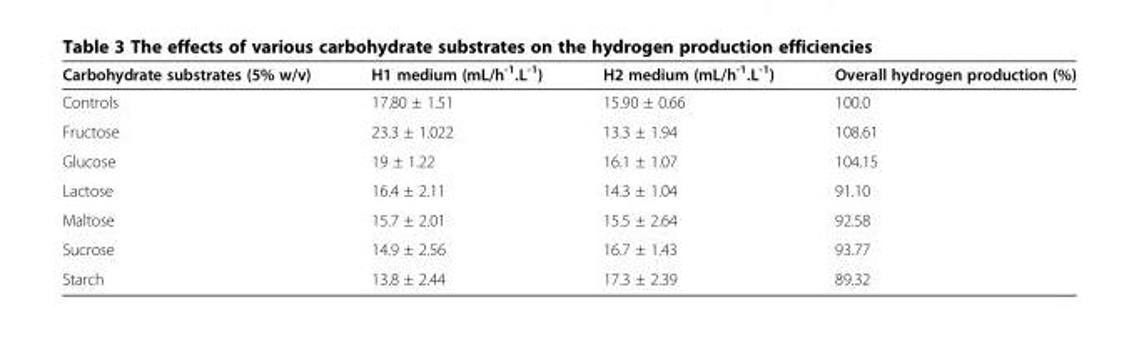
<table><thead><tr><td>Carbohydrate substrates (5% w/v)</td><td>H1 medium (mL/h<sup>-1</sup>.L<sup>-1</sup>)</td><td>H2 medium (mL/h<sup>-1</sup>.L<sup>-1</sup>)</td><td>Overall hydrogen production (%)</td></tr></thead><tbody><tr><td>Controls</td><td>17.80 ± 1.51</td><td>15.90 ± 0.66</td><td>100.0</td></tr><tr><td>Fructose</td><td>23.3 ± 1.022</td><td>13.3 ± 1.94</td><td>108.61</td></tr><tr><td>Glucose</td><td>19 ± 1.22</td><td>16.1 ± 1.07</td><td>104.15</td></tr><tr><td>Lactose</td><td>16.4 ± 2.11</td><td>14.3 ± 1.04</td><td>91.10</td></tr><tr><td>Maltose</td><td>15.7 ± 2.01</td><td>15.5 ± 2.64</td><td>92.58</td></tr><tr><td>Sucrose</td><td>14.9 ± 2.56</td><td>16.7 ± 1.43</td><td>93.77</td></tr><tr><td>Starch</td><td>13.8 ± 2.44</td><td>17.3 ± 2.39</td><td>89.32</td></tr></tbody></table>